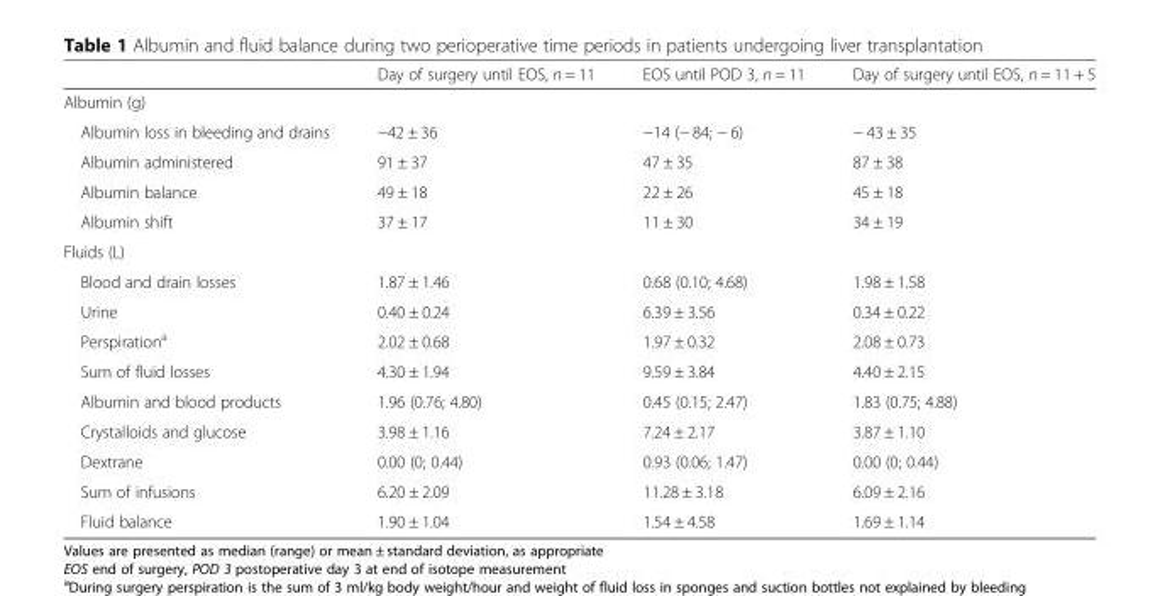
<table><thead><tr><td></td><td>Day of surgery until EOS, n = 11</td><td>EOS until POD 3, n = 11</td><td>Day of surgery until EOS, n = 11 + 5</td></tr></thead><tbody><tr><td colspan="4">Albumin (g)</td></tr><tr><td>Albumin loss in bleeding and drains</td><td>−42 ± 36</td><td>−14 (− 84; − 6)</td><td>− 43 ± 35</td></tr><tr><td>Albumin administered</td><td>91 ± 37</td><td>47 ± 35</td><td>87 ± 38</td></tr><tr><td>Albumin balance</td><td>49 ± 18</td><td>22 ± 26</td><td>45 ± 18</td></tr><tr><td>Albumin shift</td><td>37 ± 17</td><td>11 ± 30</td><td>34 ± 19</td></tr><tr><td colspan="4">Fluids (L)</td></tr><tr><td>Blood and drain losses</td><td>1.87 ± 1.46</td><td>0.68 (0.10; 4.68)</td><td>1.98 ± 1.58</td></tr><tr><td>Urine</td><td>0.40 ± 0.24</td><td>6.39 ± 3.56</td><td>0.34 ± 0.22</td></tr><tr><td>Perspiration<sup>a</sup></td><td>2.02 ± 0.68</td><td>1.97 ± 0.32</td><td>2.08 ± 0.73</td></tr><tr><td>Sum of fluid losses</td><td>4.30 ± 1.94</td><td>9.59 ± 3.84</td><td>4.40 ± 2.15</td></tr><tr><td>Albumin and blood products</td><td>1.96 (0.76; 4.80)</td><td>0.45 (0.15; 2.47)</td><td>1.83 (0.75; 4.88)</td></tr><tr><td>Crystalloids and glucose</td><td>3.98 ± 1.16</td><td>7.24 ± 2.17</td><td>3.87 ± 1.10</td></tr><tr><td>Dextrane</td><td>0.00 (0; 0.44)</td><td>0.93 (0.06; 1.47)</td><td>0.00 (0; 0.44)</td></tr><tr><td>Sum of infusions</td><td>6.20 ± 2.09</td><td>11.28 ± 3.18</td><td>6.09 ± 2.16</td></tr><tr><td>Fluid balance</td><td>1.90 ± 1.04</td><td>1.54 ± 4.58</td><td>1.69 ± 1.14</td></tr></tbody></table>